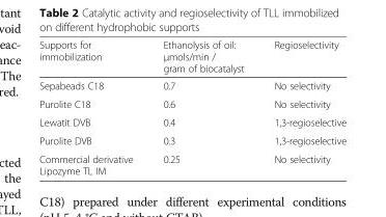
<table><thead><tr><td>Supports for immobilization</td><td>Ethanolysis of oil: μmols/min / gram of biocatalyst</td><td>Regioselectivity</td></tr></thead><tbody><tr><td>Sepabeads C18</td><td>0.7</td><td>No selectivity</td></tr><tr><td>Purolite C18</td><td>0.6</td><td>No selectivity</td></tr><tr><td>Lewatit DVB</td><td>0.4</td><td>1,3-regioselective</td></tr><tr><td>Purolite DVB</td><td>0.3</td><td>1,3-regioselective</td></tr><tr><td>Commercial derivative Lipozyme TL IM</td><td>0.25</td><td>No selectivity</td></tr></tbody></table>